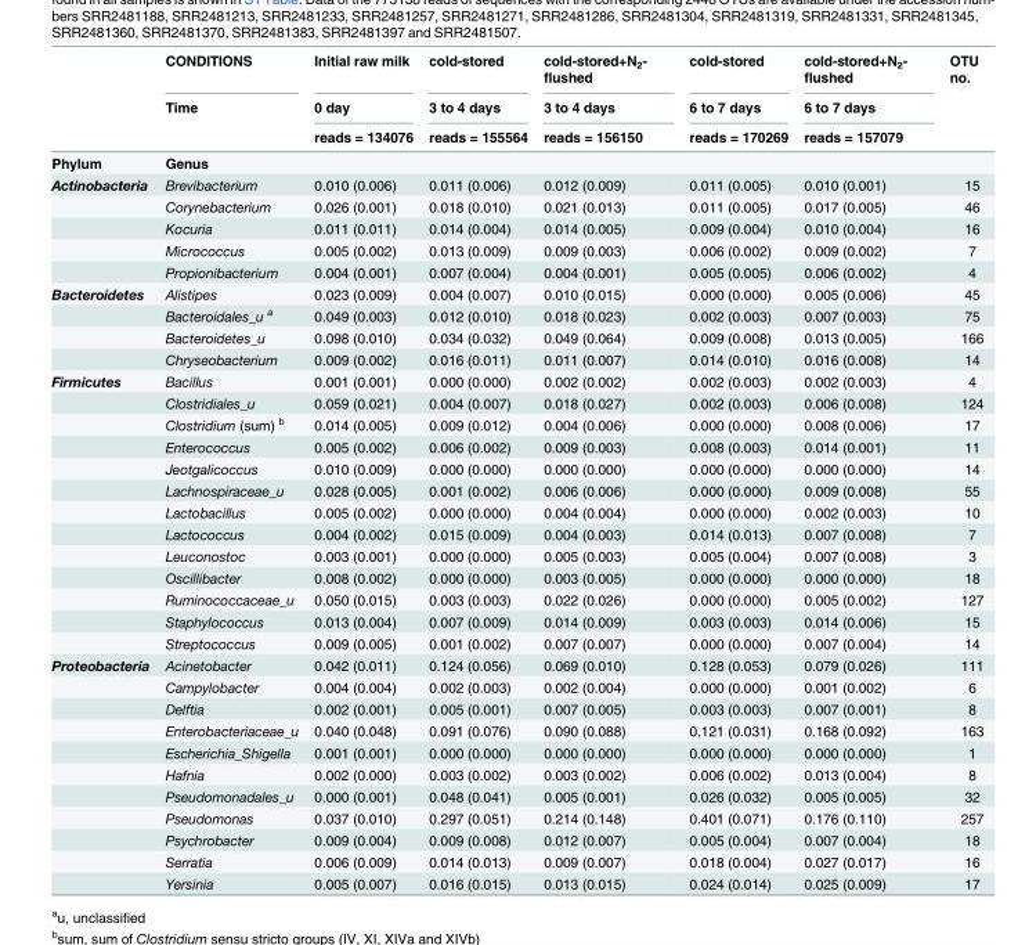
<table><thead><tr><td rowspan="3"></td><td rowspan="3">CONDITIONS Time</td><td rowspan="3">Initial raw milk 0 day reads = 134076</td><td rowspan="3">cold-stored 3 to 4 days reads = 155564</td><td rowspan="3">cold-stored+N<sub>2</sub>- flushed 3 to 4 days reads = 156150</td><td rowspan="3">cold-stored 6 to 7 days reads = 170269</td><td rowspan="3">cold-stored+N<sub>2</sub>- flushed 6 to 7 days reads = 157079</td><td rowspan="3">OTU no.</td></tr><tr></tr><tr></tr></thead><tbody><tr><td>Phylum</td><td>Genus</td><td></td><td></td><td></td><td></td><td></td><td></td></tr><tr><td rowspan="5">Actinobacteria</td><td>Brevibacterium</td><td>0.010 (0.006)</td><td>0.011 (0.006)</td><td>0.012 (0.009)</td><td>0.011 (0.005)</td><td>0.010 (0.001)</td><td>15</td></tr><tr><td>Corynebacterium</td><td>0.026 (0.001)</td><td>0.018 (0.010)</td><td>0.021 (0.013)</td><td>0.011 (0.005)</td><td>0.017 (0.005)</td><td>46</td></tr><tr><td>Kocuria</td><td>0.011 (0.011)</td><td>0.014 (0.004)</td><td>0.014 (0.005)</td><td>0.009 (0.004)</td><td>0.010 (0.004)</td><td>16</td></tr><tr><td>Micrococcus</td><td>0.005 (0.002)</td><td>0.013 (0.009)</td><td>0.009 (0.003)</td><td>0.006 (0.002)</td><td>0.009 (0.002)</td><td>7</td></tr><tr><td>Propionibacterium</td><td>0.004 (0.001)</td><td>0.007 (0.004)</td><td>0.004 (0.001)</td><td>0.005 (0.005)</td><td>0.006 (0.002)</td><td>4</td></tr><tr><td rowspan="4">Bacteroidetes</td><td>Alistipes</td><td>0.023 (0.009)</td><td>0.004 (0.007)</td><td>0.010 (0.015)</td><td>0.000 (0.000)</td><td>0.005 (0.006)</td><td>45</td></tr><tr><td>Bacteroidales_u <sup>a</sup></td><td>0.049 (0.003)</td><td>0.012 (0.010)</td><td>0.018 (0.023)</td><td>0.002 (0.003)</td><td>0.007 (0.003)</td><td>75</td></tr><tr><td>Bacteroidetes_u</td><td>0.098 (0.010)</td><td>0.034 (0.032)</td><td>0.049 (0.064)</td><td>0.009 (0.008)</td><td>0.013 (0.005)</td><td>166</td></tr><tr><td>Chryseobacterium</td><td>0.009 (0.002)</td><td>0.016 (0.011)</td><td>0.011 (0.007)</td><td>0.014 (0.010)</td><td>0.016 (0.008)</td><td>14</td></tr><tr><td rowspan="13">Firmicutes</td><td>Bacillus</td><td>0.001 (0.001)</td><td>0.000 (0.000)</td><td>0.002 (0.002)</td><td>0.002 (0.003)</td><td>0.002 (0.003)</td><td>4</td></tr><tr><td>Clostridiales_u</td><td>0.059 (0.021)</td><td>0.004 (0.007)</td><td>0.018 (0.027)</td><td>0.002 (0.003)</td><td>0.006 (0.008)</td><td>124</td></tr><tr><td>Clostridium (sum) <sup>b</sup></td><td>0.014 (0.005)</td><td>0.009 (0.012)</td><td>0.004 (0.006)</td><td>0.000 (0.000)</td><td>0.008 (0.006)</td><td>17</td></tr><tr><td>Enterococcus</td><td>0.005 (0.002)</td><td>0.006 (0.002)</td><td>0.009 (0.003)</td><td>0.008 (0.003)</td><td>0.014 (0.001)</td><td>11</td></tr><tr><td>Jeotgalicoccus</td><td>0.010 (0.009)</td><td>0.000 (0.000)</td><td>0.000 (0.000)</td><td>0.000 (0.000)</td><td>0.000 (0.000)</td><td>14</td></tr><tr><td>Lachnospiraceae_u</td><td>0.028 (0.005)</td><td>0.001 (0.002)</td><td>0.006 (0.006)</td><td>0.000 (0.000)</td><td>0.009 (0.008)</td><td>55</td></tr><tr><td>Lactobacillus</td><td>0.005 (0.002)</td><td>0.000 (0.000)</td><td>0.004 (0.004)</td><td>0.000 (0.000)</td><td>0.002 (0.003)</td><td>10</td></tr><tr><td>Lactococcus</td><td>0.004 (0.002)</td><td>0.015 (0.009)</td><td>0.004 (0.003)</td><td>0.014 (0.013)</td><td>0.007 (0.008)</td><td>7</td></tr><tr><td>Leuconostoc</td><td>0.003 (0.001)</td><td>0.000 (0.000)</td><td>0.005 (0.003)</td><td>0.005 (0.004)</td><td>0.007 (0.008)</td><td>3</td></tr><tr><td>Oscillibacter</td><td>0.008 (0.002)</td><td>0.000 (0.000)</td><td>0.003 (0.005)</td><td>0.000 (0.000)</td><td>0.000 (0.000)</td><td>18</td></tr><tr><td>Ruminococcaceae_u</td><td>0.050 (0.015)</td><td>0.003 (0.003)</td><td>0.022 (0.026)</td><td>0.000 (0.000)</td><td>0.005 (0.002)</td><td>127</td></tr><tr><td>Staphylococcus</td><td>0.013 (0.004)</td><td>0.007 (0.009)</td><td>0.014 (0.009)</td><td>0.003 (0.003)</td><td>0.014 (0.006)</td><td>15</td></tr><tr><td>Streptococcus</td><td>0.009 (0.005)</td><td>0.001 (0.002)</td><td>0.007 (0.007)</td><td>0.000 (0.000)</td><td>0.007 (0.004)</td><td>14</td></tr><tr><td rowspan="11">Proteobacteria</td><td>Acinetobacter</td><td>0.042 (0.011)</td><td>0.124 (0.056)</td><td>0.069 (0.010)</td><td>0.128 (0.053)</td><td>0.079 (0.026)</td><td>111</td></tr><tr><td>Campylobacter</td><td>0.004 (0.004)</td><td>0.002 (0.003)</td><td>0.002 (0.004)</td><td>0.000 (0.000)</td><td>0.001 (0.002)</td><td>6</td></tr><tr><td>Delftia</td><td>0.002 (0.001)</td><td>0.005 (0.001)</td><td>0.007 (0.005)</td><td>0.003 (0.003)</td><td>0.007 (0.001)</td><td>8</td></tr><tr><td>Enterobacteriaceae_u</td><td>0.040 (0.048)</td><td>0.091 (0.076)</td><td>0.090 (0.088)</td><td>0.121 (0.031)</td><td>0.168 (0.092)</td><td>163</td></tr><tr><td>Escherichia_Shigella</td><td>0.001 (0.001)</td><td>0.000 (0.000)</td><td>0.000 (0.000)</td><td>0.000 (0.000)</td><td>0.000 (0.000)</td><td>1</td></tr><tr><td>Hafnia</td><td>0.002 (0.000)</td><td>0.003 (0.002)</td><td>0.003 (0.002)</td><td>0.006 (0.002)</td><td>0.013 (0.004)</td><td>8</td></tr><tr><td>Pseudomonadales_u</td><td>0.000 (0.001)</td><td>0.048 (0.041)</td><td>0.005 (0.001)</td><td>0.026 (0.032)</td><td>0.005 (0.005)</td><td>32</td></tr><tr><td>Pseudomonas</td><td>0.037 (0.010)</td><td>0.297 (0.051)</td><td>0.214 (0.148)</td><td>0.401 (0.071)</td><td>0.176 (0.110)</td><td>257</td></tr><tr><td>Psychrobacter</td><td>0.009 (0.004)</td><td>0.009 (0.008)</td><td>0.012 (0.007)</td><td>0.005 (0.004)</td><td>0.007 (0.004)</td><td>18</td></tr><tr><td>Serratia</td><td>0.006 (0.009)</td><td>0.014 (0.013)</td><td>0.009 (0.007)</td><td>0.018 (0.004)</td><td>0.027 (0.017)</td><td>16</td></tr><tr><td>Yersinia</td><td>0.005 (0.007)</td><td>0.016 (0.015)</td><td>0.013 (0.015)</td><td>0.024 (0.014)</td><td>0.025 (0.009)</td><td>17</td></tr></tbody></table>